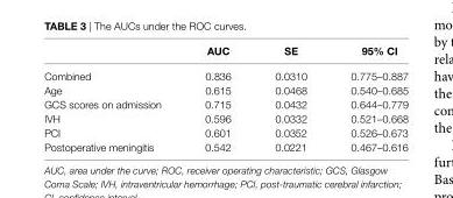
<table><thead><tr><td></td><td>aUc</td><td>se</td><td>95% ci</td></tr></thead><tbody><tr><td>Combined</td><td>0.836</td><td>0.0310</td><td>0.775–0.887</td></tr><tr><td>Age</td><td>0.615</td><td>0.0468</td><td>0.540–0.685</td></tr><tr><td>GCS scores on admission</td><td>0.715</td><td>0.0432</td><td>0.644–0.779</td></tr><tr><td>IVH</td><td>0.596</td><td>0.0332</td><td>0.521–0.668</td></tr><tr><td>PCI</td><td>0.601</td><td>0.0352</td><td>0.526–0.673</td></tr><tr><td>Postoperative meningitis</td><td>0.542</td><td>0.0221</td><td>0.467–0.616</td></tr></tbody></table>